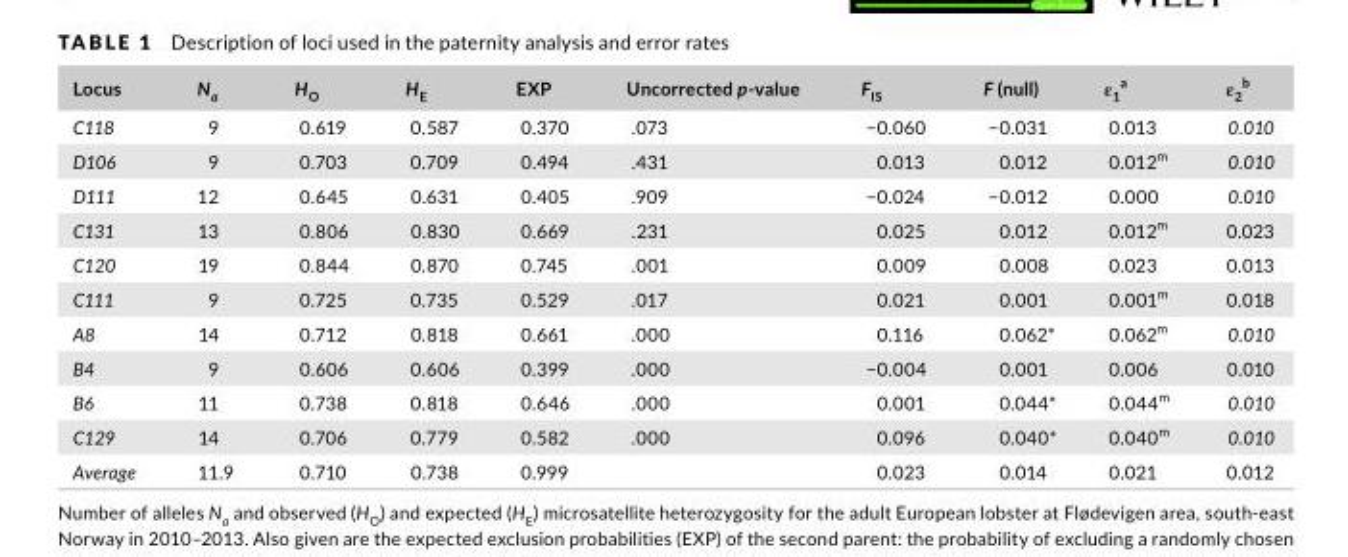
<table><thead><tr><td>Locus</td><td>N<sub>a</sub></td><td>H<sub>O</sub></td><td>H<sub>E</sub></td><td>EXP</td><td>Uncorrected p- value</td><td>F<sub>IS</sub></td><td>F (null)</td><td>ε<sub>1</sub> a</td><td>ε<sub>2</sub> b</td></tr></thead><tbody><tr><td>C118</td><td>9</td><td>0.619</td><td>0.587</td><td>0.370</td><td>.073</td><td>−0.060</td><td>−0.031</td><td>0.013</td><td>0.010</td></tr><tr><td>D106</td><td>9</td><td>0.703</td><td>0.709</td><td>0.494</td><td>.431</td><td>0.013</td><td>0.012</td><td>0.012<sup>m</sup></td><td>0.010</td></tr><tr><td>D111</td><td>12</td><td>0.645</td><td>0.631</td><td>0.405</td><td>.909</td><td>−0.024</td><td>−0.012</td><td>0.000</td><td>0.010</td></tr><tr><td>C131</td><td>13</td><td>0.806</td><td>0.830</td><td>0.669</td><td>.231</td><td>0.025</td><td>0.012</td><td>0.012<sup>m</sup></td><td>0.023</td></tr><tr><td>C120</td><td>19</td><td>0.844</td><td>0.870</td><td>0.745</td><td>.001</td><td>0.009</td><td>0.008</td><td>0.023</td><td>0.013</td></tr><tr><td>C111</td><td>9</td><td>0.725</td><td>0.735</td><td>0.529</td><td>.017</td><td>0.021</td><td>0.001</td><td>0.001<sup>m</sup></td><td>0.018</td></tr><tr><td>A8</td><td>14</td><td>0.712</td><td>0.818</td><td>0.661</td><td>.000</td><td>0.116</td><td>0.062*</td><td>0.062<sup>m</sup></td><td>0.010</td></tr><tr><td>B4</td><td>9</td><td>0.606</td><td>0.606</td><td>0.399</td><td>.000</td><td>−0.004</td><td>0.001</td><td>0.006</td><td>0.010</td></tr><tr><td>B6</td><td>11</td><td>0.738</td><td>0.818</td><td>0.646</td><td>.000</td><td>0.001</td><td>0.044*</td><td>0.044<sup>m</sup></td><td>0.010</td></tr><tr><td>C129</td><td>14</td><td>0.706</td><td>0.779</td><td>0.582</td><td>.000</td><td>0.096</td><td>0.040*</td><td>0.040<sup>m</sup></td><td>0.010</td></tr><tr><td>Average</td><td>11.9</td><td>0.710</td><td>0.738</td><td>0.999</td><td></td><td>0.023</td><td>0.014</td><td>0.021</td><td>0.012</td></tr></tbody></table>